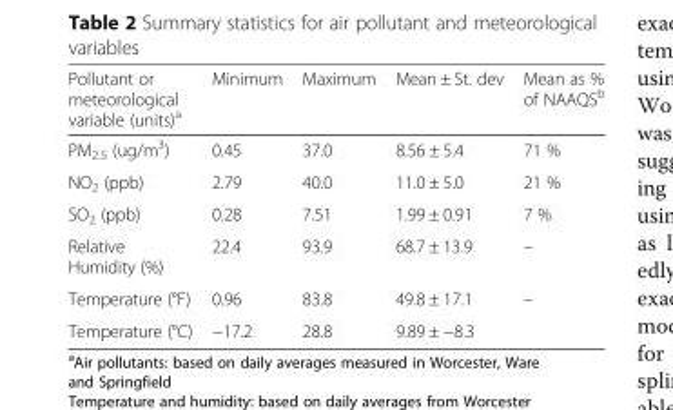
<table><thead><tr><td>Pollutant or meteorological variable (units)<sup>a</sup></td><td>Minimum</td><td>Maximum</td><td>Mean ± St. dev</td><td>Mean as % of NAAQS<sup>b</sup></td></tr></thead><tbody><tr><td>PM<sub>2.5</sub> (ug/m<sup>3</sup>)</td><td>0.45</td><td>37.0</td><td>8.56 ± 5.4</td><td>71 %</td></tr><tr><td>NO<sub>2</sub> (ppb)</td><td>2.79</td><td>40.0</td><td>11.0 ± 5.0</td><td>21 %</td></tr><tr><td>SO<sub>2</sub> (ppb)</td><td>0.28</td><td>7.51</td><td>1.99 ± 0.91</td><td>7 %</td></tr><tr><td>Relative Humidity (%)</td><td>22.4</td><td>93.9</td><td>68.7 ± 13.9</td><td>–</td></tr><tr><td>Temperature (°F)</td><td>0.96</td><td>83.8</td><td>49.8 ± 17.1</td><td>–</td></tr><tr><td>Temperature (°C)</td><td>−17.2</td><td>28.8</td><td>9.89 ± −8.3</td><td></td></tr></tbody></table>